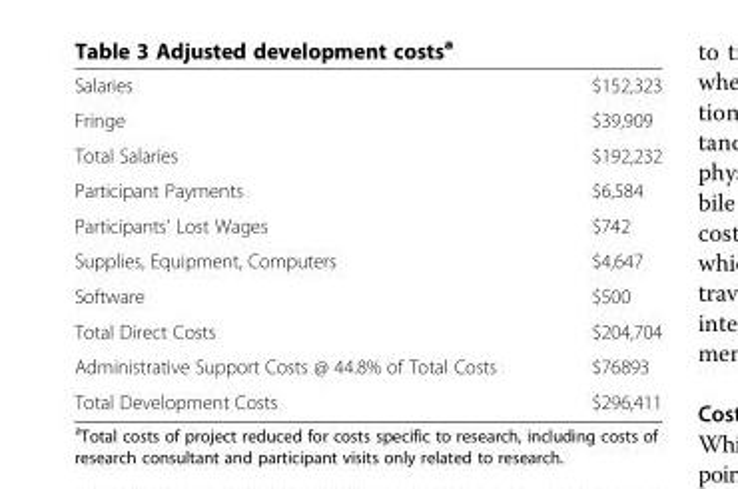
<table><tbody><tr><td>Salaries</td><td>$152,323</td></tr><tr><td>Fringe</td><td>$39,909</td></tr><tr><td>Total Salaries</td><td>$192,232</td></tr><tr><td>Participant Payments</td><td>$6,584</td></tr><tr><td>Participants’ Lost Wages</td><td>$742</td></tr><tr><td>Supplies, Equipment, Computers</td><td>$4,647</td></tr><tr><td>Software</td><td>$500</td></tr><tr><td>Total Direct Costs</td><td>$204,704</td></tr><tr><td>Administrative Support Costs @ 44.8% of Total Costs</td><td>$76893</td></tr><tr><td>Total Development Costs</td><td>$296,411</td></tr></tbody></table>